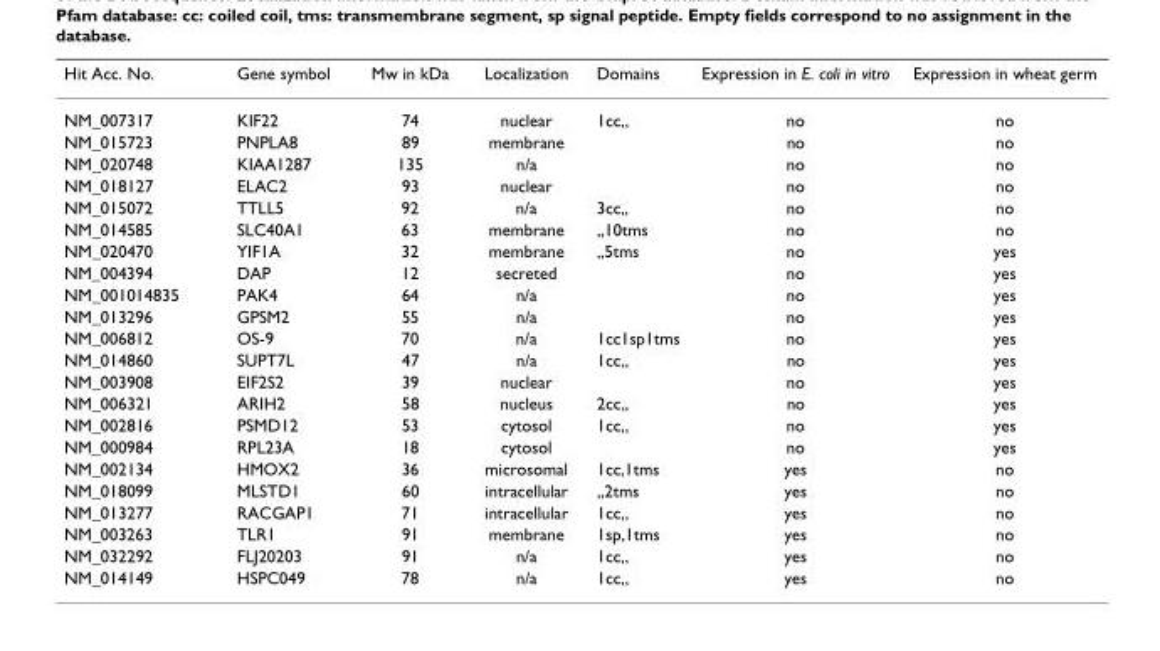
<table><thead><tr><td>Hit Acc. No.</td><td>Gene symbol</td><td>Mw in kDa</td><td>Localization</td><td>Domains</td><td>Expression in E. coli in vitro</td><td>Expression in wheat germ</td></tr></thead><tbody><tr><td>NM_007317</td><td>KIF22</td><td>74</td><td>nuclear</td><td>1cc,,</td><td>no</td><td>no</td></tr><tr><td>NM_015723</td><td>PNPLA8</td><td>89</td><td>membrane</td><td></td><td>no</td><td>no</td></tr><tr><td>NM_020748</td><td>KIAA1287</td><td>135</td><td>n/a</td><td></td><td>no</td><td>no</td></tr><tr><td>NM_018127</td><td>ELAC2</td><td>93</td><td>nuclear</td><td></td><td>no</td><td>no</td></tr><tr><td>NM_015072</td><td>TTLL5</td><td>92</td><td>n/a</td><td>3cc,,</td><td>no</td><td>no</td></tr><tr><td>NM_014585</td><td>SLC40A1</td><td>63</td><td>membrane</td><td>,,10tms</td><td>no</td><td>no</td></tr><tr><td>NM_020470</td><td>YIF1A</td><td>32</td><td>membrane</td><td>,,5tms</td><td>no</td><td>yes</td></tr><tr><td>NM_004394</td><td>DAP</td><td>12</td><td>secreted</td><td></td><td>no</td><td>yes</td></tr><tr><td>NM_001014835</td><td>PAK4</td><td>64</td><td>n/a</td><td></td><td>no</td><td>yes</td></tr><tr><td>NM_013296</td><td>GPSM2</td><td>55</td><td>n/a</td><td></td><td>no</td><td>yes</td></tr><tr><td>NM_006812</td><td>OS-9</td><td>70</td><td>n/a</td><td>1cc1sp1tms</td><td>no</td><td>yes</td></tr><tr><td>NM_014860</td><td>SUPT7L</td><td>47</td><td>n/a</td><td>1cc,,</td><td>no</td><td>yes</td></tr><tr><td>NM_003908</td><td>EIF2S2</td><td>39</td><td>nuclear</td><td></td><td>no</td><td>yes</td></tr><tr><td>NM_006321</td><td>ARIH2</td><td>58</td><td>nucleus</td><td>2cc,,</td><td>no</td><td>yes</td></tr><tr><td>NM_002816</td><td>PSMD12</td><td>53</td><td>cytosol</td><td>1cc,,</td><td>no</td><td>yes</td></tr><tr><td>NM_000984</td><td>RPL23A</td><td>18</td><td>cytosol</td><td></td><td>no</td><td>yes</td></tr><tr><td>NM_002134</td><td>HMOX2</td><td>36</td><td>microsomal</td><td>1cc,1tms</td><td>yes</td><td>no</td></tr><tr><td>NM_018099</td><td>MLSTD1</td><td>60</td><td>intracellular</td><td>,,2tms</td><td>yes</td><td>no</td></tr><tr><td>NM_013277</td><td>RACGAP1</td><td>71</td><td>intracellular</td><td>1cc,,</td><td>yes</td><td>no</td></tr><tr><td>NM_003263</td><td>TLR1</td><td>91</td><td>membrane</td><td>1sp,1tms</td><td>yes</td><td>no</td></tr><tr><td>NM_032292</td><td>FLJ20203</td><td>91</td><td>n/a</td><td>1cc,,</td><td>yes</td><td>no</td></tr><tr><td>NM_014149</td><td>HSPC049</td><td>78</td><td>n/a</td><td>1cc,,</td><td>yes</td><td>no</td></tr></tbody></table>